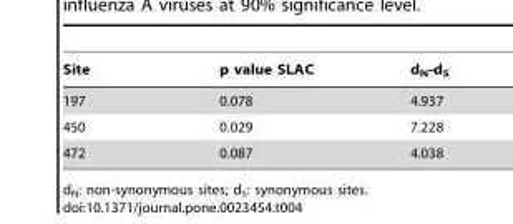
<table><thead><tr><td>Site</td><td>p value SLAC</td><td>d<sub>N</sub>-d<sub>S</sub></td></tr></thead><tbody><tr><td>197</td><td>0.078</td><td>4.937</td></tr><tr><td>450</td><td>0.029</td><td>7.228</td></tr><tr><td>472</td><td>0.087</td><td>4.038</td></tr></tbody></table>